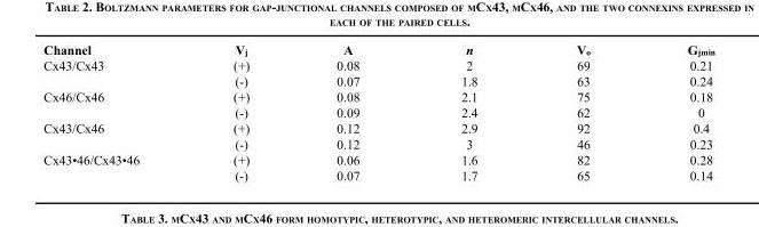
<table><thead><tr><td>Channel</td><td>V<sub>j</sub></td><td>A</td><td>n</td><td>V<sub>o</sub></td><td>G<sub>jmin</sub></td></tr></thead><tbody><tr><td rowspan="2">Cx43/Cx43</td><td>(+)</td><td>0.08</td><td>2</td><td>69</td><td>0.21</td></tr><tr><td>(-)</td><td>0.07</td><td>1.8</td><td>63</td><td>0.24</td></tr><tr><td rowspan="2">Cx46/Cx46</td><td>(+)</td><td>0.08</td><td>2.1</td><td>75</td><td>0.18</td></tr><tr><td>(-)</td><td>0.09</td><td>2.4</td><td>62</td><td>0</td></tr><tr><td rowspan="2">Cx43/Cx46</td><td>(+)</td><td>0.12</td><td>2.9</td><td>92</td><td>0.4</td></tr><tr><td>(-)</td><td>0.12</td><td>3</td><td>46</td><td>0.23</td></tr><tr><td rowspan="2">Cx43•46/Cx43•46</td><td>(+)</td><td>0.06</td><td>1.6</td><td>82</td><td>0.28</td></tr><tr><td>(-)</td><td>0.07</td><td>1.7</td><td>65</td><td>0.14</td></tr></tbody></table>